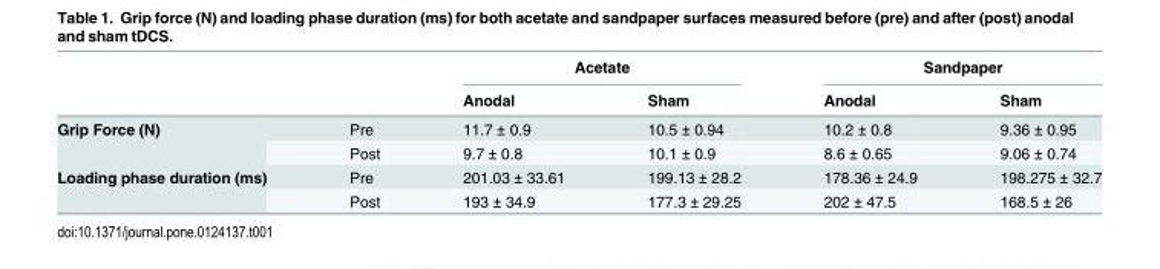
<table><thead><tr><td rowspan="2"></td><td rowspan="2"></td><td colspan="2">Acetate</td><td colspan="2">Sandpaper</td></tr><tr><td>Anodal</td><td>Sham</td><td>Anodal</td><td>Sham</td></tr></thead><tbody><tr><td rowspan="2">Grip Force (N)</td><td>Pre</td><td>11.7 ± 0.9</td><td>10.5 ± 0.94</td><td>10.2 ± 0.8</td><td>9.36 ± 0.95</td></tr><tr><td>Post</td><td>9.7 ± 0.8</td><td>10.1 ± 0.9</td><td>8.6 ± 0.65</td><td>9.06 ± 0.74</td></tr><tr><td rowspan="2">Loading phase duration (ms)</td><td>Pre</td><td>201.03 ± 33.61</td><td>199.13 ± 28.2</td><td>178.36 ± 24.9</td><td>198.275 ± 32.7</td></tr><tr><td>Post</td><td>193 ± 34.9</td><td>177.3 ± 29.25</td><td>202 ± 47.5</td><td>168.5 ± 26</td></tr></tbody></table>